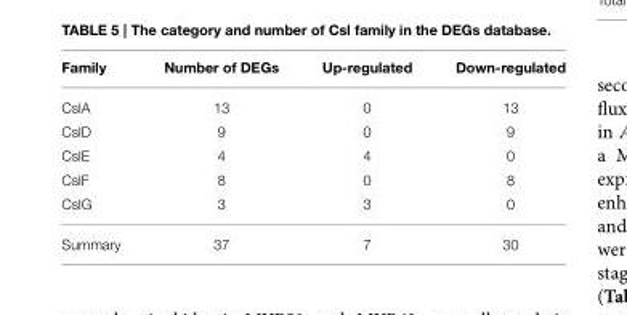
<table><thead><tr><td>Family</td><td>Number of DEGs</td><td>Up-regulated</td><td>Down-regulated</td></tr></thead><tbody><tr><td>CslA</td><td>13</td><td>0</td><td>13</td></tr><tr><td>CslD</td><td>9</td><td>0</td><td>9</td></tr><tr><td>CslE</td><td>4</td><td>4</td><td>0</td></tr><tr><td>CslF</td><td>8</td><td>0</td><td>8</td></tr><tr><td>CslG</td><td>3</td><td>3</td><td>0</td></tr><tr><td>Summary</td><td>37</td><td>7</td><td>30</td></tr></tbody></table>